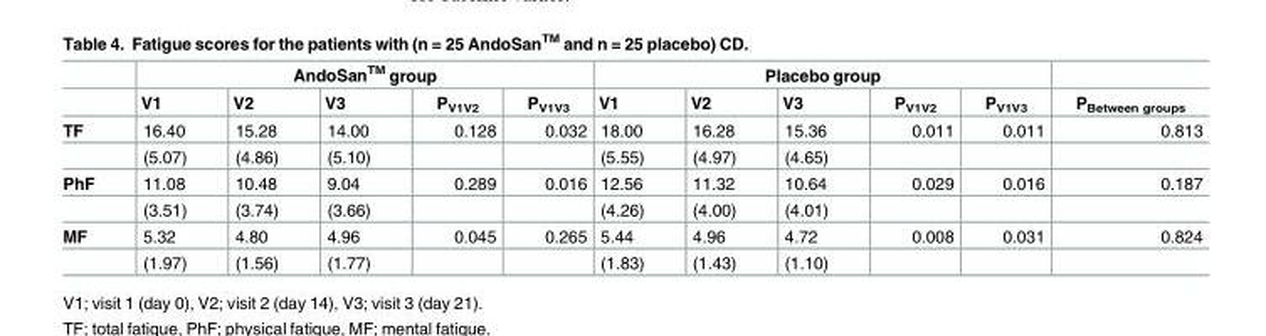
<table><thead><tr><td rowspan="2"></td><td colspan="5">AndoSan<sup>TM</sup> group</td><td colspan="5">Placebo group</td><td rowspan="2">P<sub>Between groups</sub></td></tr><tr><td>V1</td><td>V2</td><td>V3</td><td>P<sub>V1V2</sub></td><td>P<sub>V1V3</sub></td><td>V1</td><td>V2</td><td>V3</td><td>P<sub>V1V2</sub></td><td>P<sub>V1V3</sub></td></tr></thead><tbody><tr><td rowspan="2">TF</td><td>16.40</td><td>15.28</td><td>14.00</td><td>0.128</td><td>0.032</td><td>18.00</td><td>16.28</td><td>15.36</td><td>0.011</td><td>0.011</td><td>0.813</td></tr><tr><td>(5.07)</td><td>(4.86)</td><td>(5.10)</td><td></td><td></td><td>(5.55)</td><td>(4.97)</td><td>(4.65)</td><td></td><td></td><td></td></tr><tr><td rowspan="2">PhF</td><td>11.08</td><td>10.48</td><td>9.04</td><td>0.289</td><td>0.016</td><td>12.56</td><td>11.32</td><td>10.64</td><td>0.029</td><td>0.016</td><td>0.187</td></tr><tr><td>(3.51)</td><td>(3.74)</td><td>(3.66)</td><td></td><td></td><td>(4.26)</td><td>(4.00)</td><td>(4.01)</td><td></td><td></td><td></td></tr><tr><td rowspan="2">MF</td><td>5.32</td><td>4.80</td><td>4.96</td><td>0.045</td><td>0.265</td><td>5.44</td><td>4.96</td><td>4.72</td><td>0.008</td><td>0.031</td><td>0.824</td></tr><tr><td>(1.97)</td><td>(1.56)</td><td>(1.77)</td><td></td><td></td><td>(1.83)</td><td>(1.43)</td><td>(1.10)</td><td></td><td></td><td></td></tr></tbody></table>